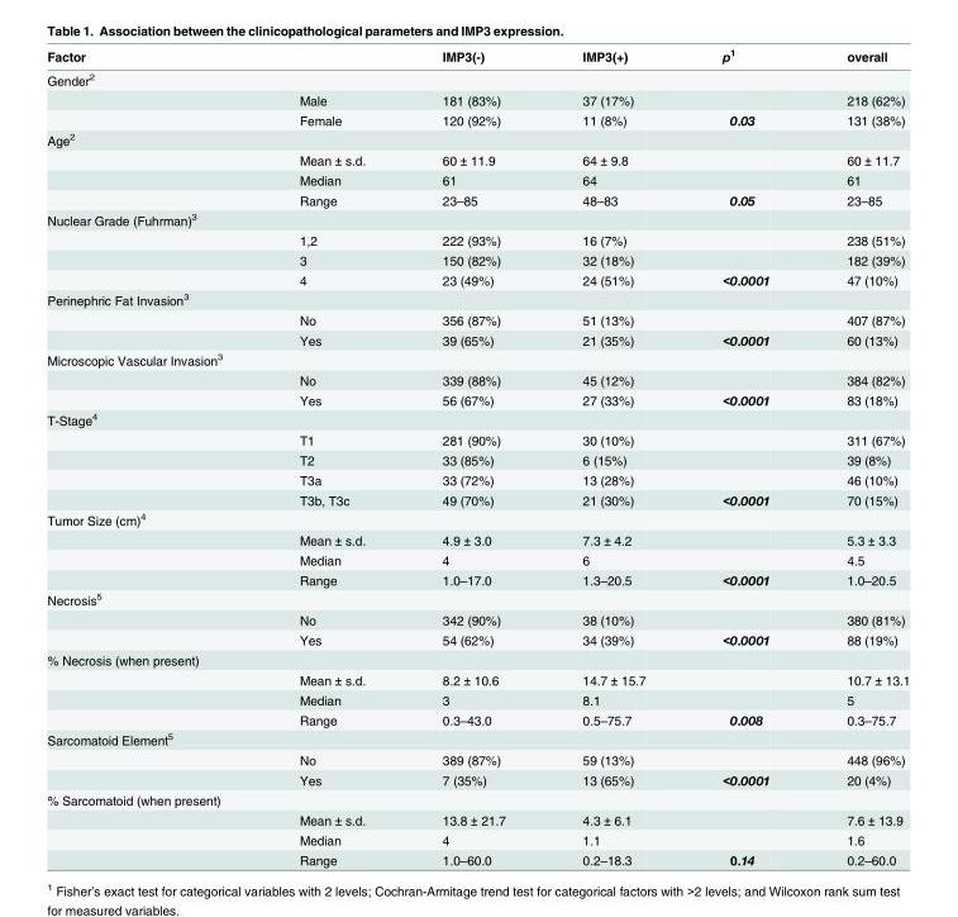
<table><thead><tr><td>Factor</td><td></td><td>IMP3(-)</td><td>IMP3(+)</td><td>p1</td><td>overall</td></tr></thead><tbody><tr><td colspan="6">Gender2</td></tr><tr><td></td><td>Male</td><td>181 (83%)</td><td>37 (17%)</td><td></td><td>218 (62%)</td></tr><tr><td></td><td>Female</td><td>120 (92%)</td><td>11 (8%)</td><td>0.03</td><td>131 (38%)</td></tr><tr><td colspan="6">Age2</td></tr><tr><td></td><td>Mean ± s.d.</td><td>60 ± 11.9</td><td>64 ± 9.8</td><td></td><td>60 ± 11.7</td></tr><tr><td></td><td>Median</td><td>61</td><td>64</td><td></td><td>61</td></tr><tr><td></td><td>Range</td><td>23–85</td><td>48–83</td><td>0.05</td><td>23–85</td></tr><tr><td colspan="6">Nuclear Grade (Fuhrman)3</td></tr><tr><td></td><td>1,2</td><td>222 (93%)</td><td>16 (7%)</td><td></td><td>238 (51%)</td></tr><tr><td></td><td>3</td><td>150 (82%)</td><td>32 (18%)</td><td></td><td>182 (39%)</td></tr><tr><td></td><td>4</td><td>23 (49%)</td><td>24 (51%)</td><td>&lt;0.0001</td><td>47 (10%)</td></tr><tr><td colspan="6">Perinephric Fat Invasion3</td></tr><tr><td></td><td>No</td><td>356 (87%)</td><td>51 (13%)</td><td></td><td>407 (87%)</td></tr><tr><td></td><td>Yes</td><td>39 (65%)</td><td>21 (35%)</td><td>&lt;0.0001</td><td>60 (13%)</td></tr><tr><td colspan="6">Microscopic Vascular Invasion3</td></tr><tr><td></td><td>No</td><td>339 (88%)</td><td>45 (12%)</td><td></td><td>384 (82%)</td></tr><tr><td></td><td>Yes</td><td>56 (67%)</td><td>27 (33%)</td><td>&lt;0.0001</td><td>83 (18%)</td></tr><tr><td colspan="6">T-Stage4</td></tr><tr><td></td><td>T1</td><td>281 (90%)</td><td>30 (10%)</td><td></td><td>311 (67%)</td></tr><tr><td></td><td>T2</td><td>33 (85%)</td><td>6 (15%)</td><td></td><td>39 (8%)</td></tr><tr><td></td><td>T3a</td><td>33 (72%)</td><td>13 (28%)</td><td></td><td>46 (10%)</td></tr><tr><td></td><td>T3b, T3c</td><td>49 (70%)</td><td>21 (30%)</td><td>&lt;0.0001</td><td>70 (15%)</td></tr><tr><td colspan="6">Tumor Size (cm)4</td></tr><tr><td></td><td>Mean ± s.d.</td><td>4.9 ± 3.0</td><td>7.3 ± 4.2</td><td></td><td>5.3 ± 3.3</td></tr><tr><td></td><td>Median</td><td>4</td><td>6</td><td></td><td>4.5</td></tr><tr><td></td><td>Range</td><td>1.0–17.0</td><td>1.3–20.5</td><td>&lt;0.0001</td><td>1.0–20.5</td></tr><tr><td colspan="6">Necrosis5</td></tr><tr><td></td><td>No</td><td>342 (90%)</td><td>38 (10%)</td><td></td><td>380 (81%)</td></tr><tr><td></td><td>Yes</td><td>54 (62%)</td><td>34 (39%)</td><td>&lt;0.0001</td><td>88 (19%)</td></tr><tr><td colspan="6">% Necrosis (when present)</td></tr><tr><td></td><td>Mean ± s.d.</td><td>8.2 ± 10.6</td><td>14.7 ± 15.7</td><td></td><td>10.7 ± 13.1</td></tr><tr><td></td><td>Median</td><td>3</td><td>8.1</td><td></td><td>5</td></tr><tr><td></td><td>Range</td><td>0.3–43.0</td><td>0.5–75.7</td><td>0.008</td><td>0.3–75.7</td></tr><tr><td colspan="6">Sarcomatoid Element5</td></tr><tr><td></td><td>No</td><td>389 (87%)</td><td>59 (13%)</td><td></td><td>448 (96%)</td></tr><tr><td></td><td>Yes</td><td>7 (35%)</td><td>13 (65%)</td><td>&lt;0.0001</td><td>20 (4%)</td></tr><tr><td colspan="6">% Sarcomatoid (when present)</td></tr><tr><td></td><td>Mean ± s.d.</td><td>13.8 ± 21.7</td><td>4.3 ± 6.1</td><td></td><td>7.6 ± 13.9</td></tr><tr><td></td><td>Median</td><td>4</td><td>1.1</td><td></td><td>1.6</td></tr><tr><td></td><td>Range</td><td>1.0–60.0</td><td>0.2–18.3</td><td>0.14</td><td>0.2–60.0</td></tr></tbody></table>